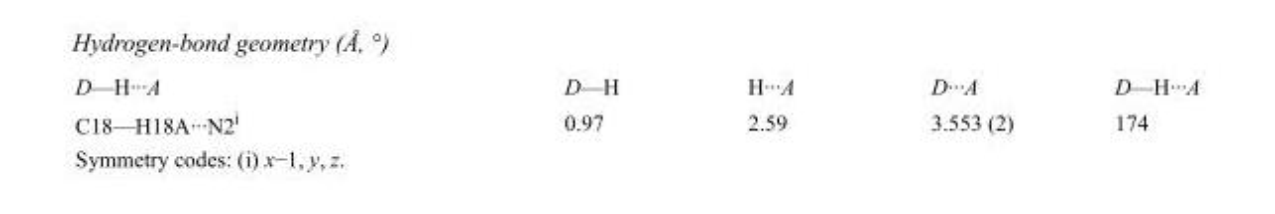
<table><tbody><tr><td>D—H···A</td><td>D—H</td><td>H···A</td><td>D···A</td><td>D—H···A</td></tr><tr><td>C18—H18A···N2<sup>i</sup></td><td>0.97</td><td>2.59</td><td>3.553 (2)</td><td>174</td></tr></tbody></table>